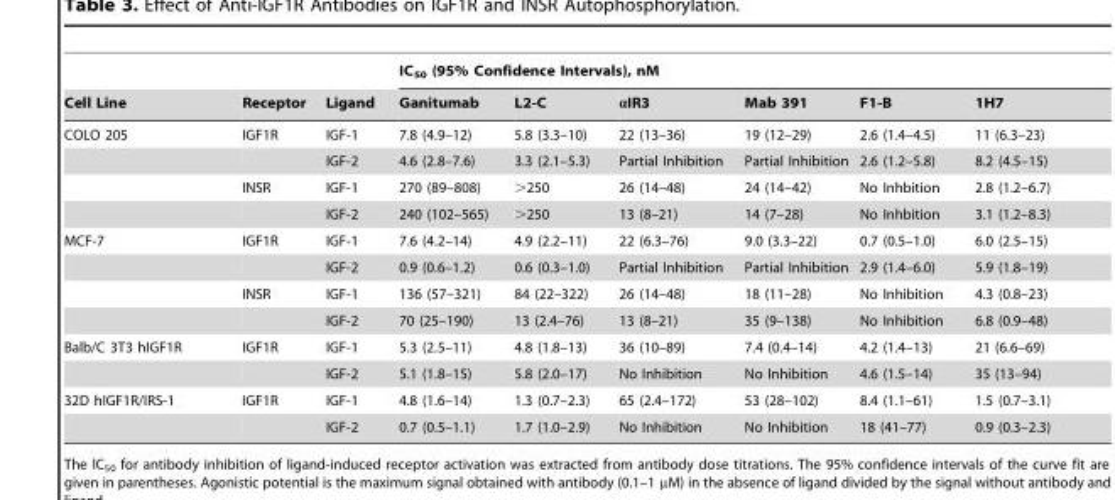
<table><thead><tr><td rowspan="2">Cell Line</td><td rowspan="2">Receptor</td><td rowspan="2">Ligand</td><td colspan="6">IC<sub>50</sub> (95% Confidence Intervals), nM</td></tr><tr><td>Ganitumab</td><td>L2-C</td><td>αIR3</td><td>Mab 391</td><td>F1-B</td><td>1H7</td></tr></thead><tbody><tr><td rowspan="4">COLO 205</td><td>IGF1R</td><td>IGF-1</td><td>7.8 (4.9–12)</td><td>5.8 (3.3–10)</td><td>22 (13–36)</td><td>19 (12–29)</td><td>2.6 (1.4–4.5)</td><td>11 (6.3–23)</td></tr><tr><td></td><td>IGF-2</td><td>4.6 (2.8–7.6)</td><td>3.3 (2.1–5.3)</td><td>Partial Inhibition</td><td>Partial Inhibition</td><td>2.6 (1.2–5.8)</td><td>8.2 (4.5–15)</td></tr><tr><td>INSR</td><td>IGF-1</td><td>270 (89–808)</td><td>&gt;250</td><td>26 (14–48)</td><td>24 (14–42)</td><td>No Inhbition</td><td>2.8 (1.2–6.7)</td></tr><tr><td></td><td>IGF-2</td><td>240 (102–565)</td><td>&gt;250</td><td>13 (8–21)</td><td>14 (7–28)</td><td>No Inhbition</td><td>3.1 (1.2–8.3)</td></tr><tr><td rowspan="4">MCF-7</td><td>IGF1R</td><td>IGF-1</td><td>7.6 (4.2–14)</td><td>4.9 (2.2–11)</td><td>22 (6.3–76)</td><td>9.0 (3.3–22)</td><td>0.7 (0.5–1.0)</td><td>6.0 (2.5–15)</td></tr><tr><td></td><td>IGF-2</td><td>0.9 (0.6–1.2)</td><td>0.6 (0.3–1.0)</td><td>Partial Inhibition</td><td>Partial Inhibition</td><td>2.9 (1.4–6.0)</td><td>5.9 (1.8–19)</td></tr><tr><td>INSR</td><td>IGF-1</td><td>136 (57–321)</td><td>84 (22–322)</td><td>26 (14–48)</td><td>18 (11–28)</td><td>No Inhibition</td><td>4.3 (0.8–23)</td></tr><tr><td></td><td>IGF-2</td><td>70 (25–190)</td><td>13 (2.4–76)</td><td>13 (8–21)</td><td>35 (9–138)</td><td>No Inhibition</td><td>6.8 (0.9–48)</td></tr><tr><td rowspan="2">Balb/C 3T3 hIGF1R</td><td>IGF1R</td><td>IGF-1</td><td>5.3 (2.5–11)</td><td>4.8 (1.8–13)</td><td>36 (10–89)</td><td>7.4 (0.4–14)</td><td>4.2 (1.4–13)</td><td>21 (6.6–69)</td></tr><tr><td></td><td>IGF-2</td><td>5.1 (1.8–15)</td><td>5.8 (2.0–17)</td><td>No Inhibition</td><td>No Inhibition</td><td>4.6 (1.5–14)</td><td>35 (13–94)</td></tr><tr><td rowspan="2">32D hIGF1R/IRS-1</td><td>IGF1R</td><td>IGF-1</td><td>4.8 (1.6–14)</td><td>1.3 (0.7–2.3)</td><td>65 (2.4–172)</td><td>53 (28–102)</td><td>8.4 (1.1–61)</td><td>1.5 (0.7–3.1)</td></tr><tr><td></td><td>IGF-2</td><td>0.7 (0.5–1.1)</td><td>1.7 (1.0–2.9)</td><td>No Inhibition</td><td>No Inhibition</td><td>18 (41–77)</td><td>0.9 (0.3–2.3)</td></tr></tbody></table>